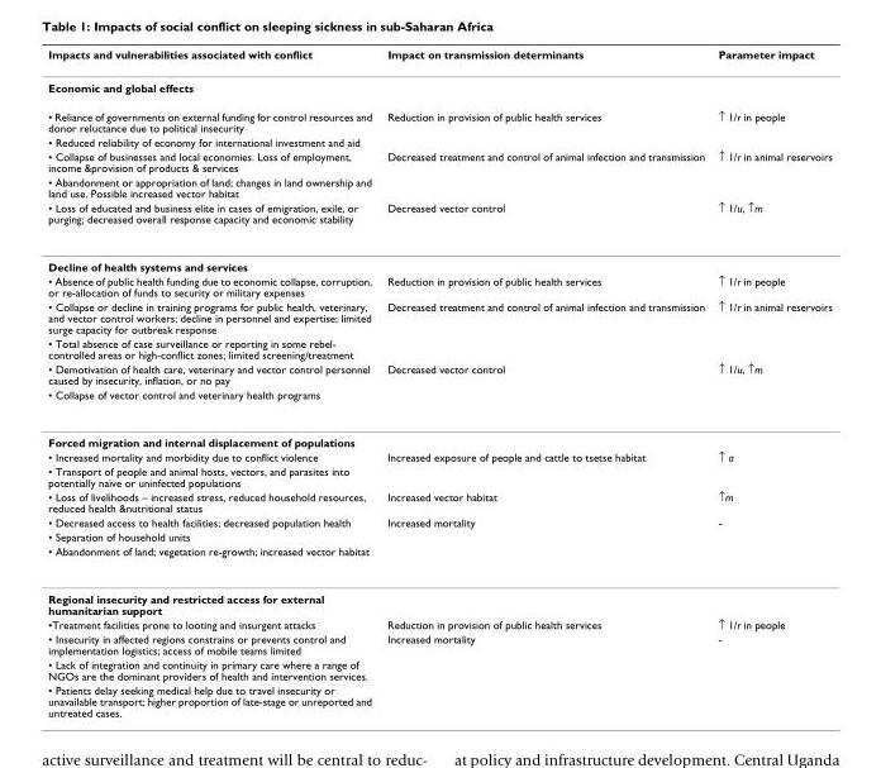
<table><thead><tr><td>Impacts and vulnerabilities associated with conflict</td><td>Impact on transmission determinants</td><td>Parameter impact</td></tr></thead><tbody><tr><td colspan="3">Economic and global effects</td></tr><tr><td>• Reliance of governments on external funding for control resources and donor reluctance due to political insecurity</td><td>Reduction in provision of public health services</td><td>↑ 1/r in people</td></tr><tr><td colspan="3">• Reduced reliability of economy for international investment and aid</td></tr><tr><td>• Collapse of businesses and local economies. Loss of employment, income &amp;provision of products &amp; services</td><td>Decreased treatment and control of animal infection and transmission</td><td>↑ 1/r in animal reservoirs</td></tr><tr><td colspan="3">• Abandonment or appropriation of land; changes in land ownership and land use. Possible increased vector habitat</td></tr><tr><td>• Loss of educated and business elite in cases of emigration, exile, or purging; decreased overall response capacity and economic stability</td><td>Decreased vector control</td><td>↑ 1/u, ↑m</td></tr><tr><td colspan="3">Decline of health systems and services</td></tr><tr><td>• Absence of public health funding due to economic collapse, corruption, or re-allocation of funds to security or military expenses</td><td>Reduction in provision of public health services</td><td>↑ 1/r in people</td></tr><tr><td>• Collapse or decline in training programs for public health, veterinary, and vector control workers; decline in personnel and expertise; limited surge capacity for outbreak response</td><td>Decreased treatment and control of animal infection and transmission</td><td>↑ 1/r in animal reservoirs</td></tr><tr><td colspan="3">• Total absence of case surveillance or reporting in some rebel- controlled areas or high-conflict zones; limited screening/treatment</td></tr><tr><td>• Demotivation of health care, veterinary and vector control personnel caused by insecurity, inflation, or no pay</td><td>Decreased vector control</td><td>↑ 1/u, ↑m</td></tr><tr><td colspan="3">• Collapse of vector control and veterinary health programs</td></tr><tr><td colspan="3">Forced migration and internal displacement of populations</td></tr><tr><td>• Increased mortality and morbidity due to conflict violence</td><td>Increased exposure of people and cattle to tsetse habitat</td><td>↑ a</td></tr><tr><td colspan="3">• Transport of people and animal hosts, vectors, and parasites into potentially naïve or uninfected populations</td></tr><tr><td>• Loss of livelihoods – increased stress, reduced household resources, reduced health &amp;nutritional status</td><td>Increased vector habitat</td><td>↑m</td></tr><tr><td>• Decreased access to health facilities; decreased population health</td><td>Increased mortality</td><td>-</td></tr><tr><td colspan="3">• Separation of household units</td></tr><tr><td colspan="3">• Abandonment of land; vegetation re-growth; increased vector habitat</td></tr><tr><td colspan="3">Regional insecurity and restricted access for external humanitarian support</td></tr><tr><td>•Treatment facilities prone to looting and insurgent attacks</td><td>Reduction in provision of public health services</td><td>↑ 1/r in people</td></tr><tr><td>• Insecurity in affected regions constrains or prevents control and implementation logistics; access of mobile teams limited</td><td>Increased mortality</td><td>-</td></tr><tr><td colspan="3">• Lack of integration and continuity in primary care where a range of NGOs are the dominant providers of health and intervention services.</td></tr><tr><td>• Patients delay seeking medical help due to travel insecurity or unavailable transport; higher proportion of late-stage or unreported and untreated cases.</td><td></td><td></td></tr></tbody></table>